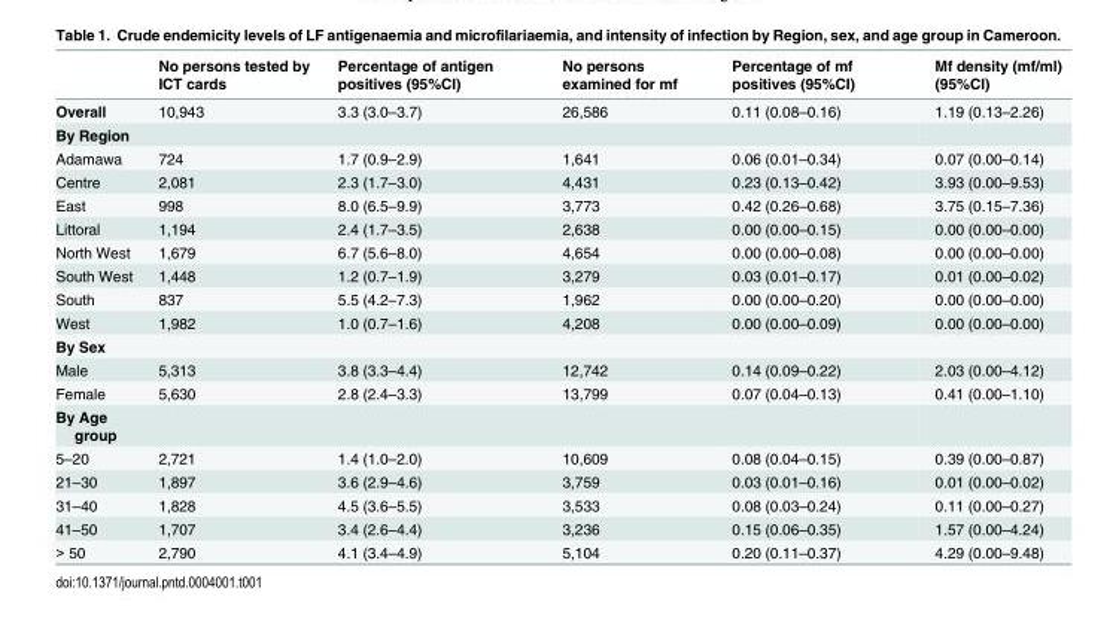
<table><thead><tr><td></td><td>No persons tested by ICT cards</td><td>Percentage of antigen positives (95%CI)</td><td>No persons examined for mf</td><td>Percentage of mf positives (95%CI)</td><td>Mf density (mf/ml) (95%CI)</td></tr></thead><tbody><tr><td>Overall</td><td>10,943</td><td>3.3 (3.0–3.7)</td><td>26,586</td><td>0.11 (0.08–0.16)</td><td>1.19 (0.13–2.26)</td></tr><tr><td colspan="6">By Region</td></tr><tr><td>Adamawa</td><td>724</td><td>1.7 (0.9–2.9)</td><td>1,641</td><td>0.06 (0.01–0.34)</td><td>0.07 (0.00–0.14)</td></tr><tr><td>Centre</td><td>2,081</td><td>2.3 (1.7–3.0)</td><td>4,431</td><td>0.23 (0.13–0.42)</td><td>3.93 (0.00–9.53)</td></tr><tr><td>East</td><td>998</td><td>8.0 (6.5–9.9)</td><td>3,773</td><td>0.42 (0.26–0.68)</td><td>3.75 (0.15–7.36)</td></tr><tr><td>Littoral</td><td>1,194</td><td>2.4 (1.7–3.5)</td><td>2,638</td><td>0.00 (0.00–0.15)</td><td>0.00 (0.00–0.00)</td></tr><tr><td>North West</td><td>1,679</td><td>6.7 (5.6–8.0)</td><td>4,654</td><td>0.00 (0.00–0.08)</td><td>0.00 (0.00–0.00)</td></tr><tr><td>South West</td><td>1,448</td><td>1.2 (0.7–1.9)</td><td>3,279</td><td>0.03 (0.01–0.17)</td><td>0.01 (0.00–0.02)</td></tr><tr><td>South</td><td>837</td><td>5.5 (4.2–7.3)</td><td>1,962</td><td>0.00 (0.00–0.20)</td><td>0.00 (0.00–0.00)</td></tr><tr><td>West</td><td>1,982</td><td>1.0 (0.7–1.6)</td><td>4,208</td><td>0.00 (0.00–0.09)</td><td>0.00 (0.00–0.00)</td></tr><tr><td colspan="6">By Sex</td></tr><tr><td>Male</td><td>5,313</td><td>3.8 (3.3–4.4)</td><td>12,742</td><td>0.14 (0.09–0.22)</td><td>2.03 (0.00–4.12)</td></tr><tr><td>Female</td><td>5,630</td><td>2.8 (2.4–3.3)</td><td>13,799</td><td>0.07 (0.04–0.13)</td><td>0.41 (0.00–1.10)</td></tr><tr><td colspan="6">By Age group</td></tr><tr><td>5–20</td><td>2,721</td><td>1.4 (1.0–2.0)</td><td>10,609</td><td>0.08 (0.04–0.15)</td><td>0.39 (0.00–0.87)</td></tr><tr><td>21–30</td><td>1,897</td><td>3.6 (2.9–4.6)</td><td>3,759</td><td>0.03 (0.01–0.16)</td><td>0.01 (0.00–0.02)</td></tr><tr><td>31–40</td><td>1,828</td><td>4.5 (3.6–5.5)</td><td>3,533</td><td>0.08 (0.03–0.24)</td><td>0.11 (0.00–0.27)</td></tr><tr><td>41–50</td><td>1,707</td><td>3.4 (2.6–4.4)</td><td>3,236</td><td>0.15 (0.06–0.35)</td><td>1.57 (0.00–4.24)</td></tr><tr><td>&gt; 50</td><td>2,790</td><td>4.1 (3.4–4.9)</td><td>5,104</td><td>0.20 (0.11–0.37)</td><td>4.29 (0.00–9.48)</td></tr></tbody></table>